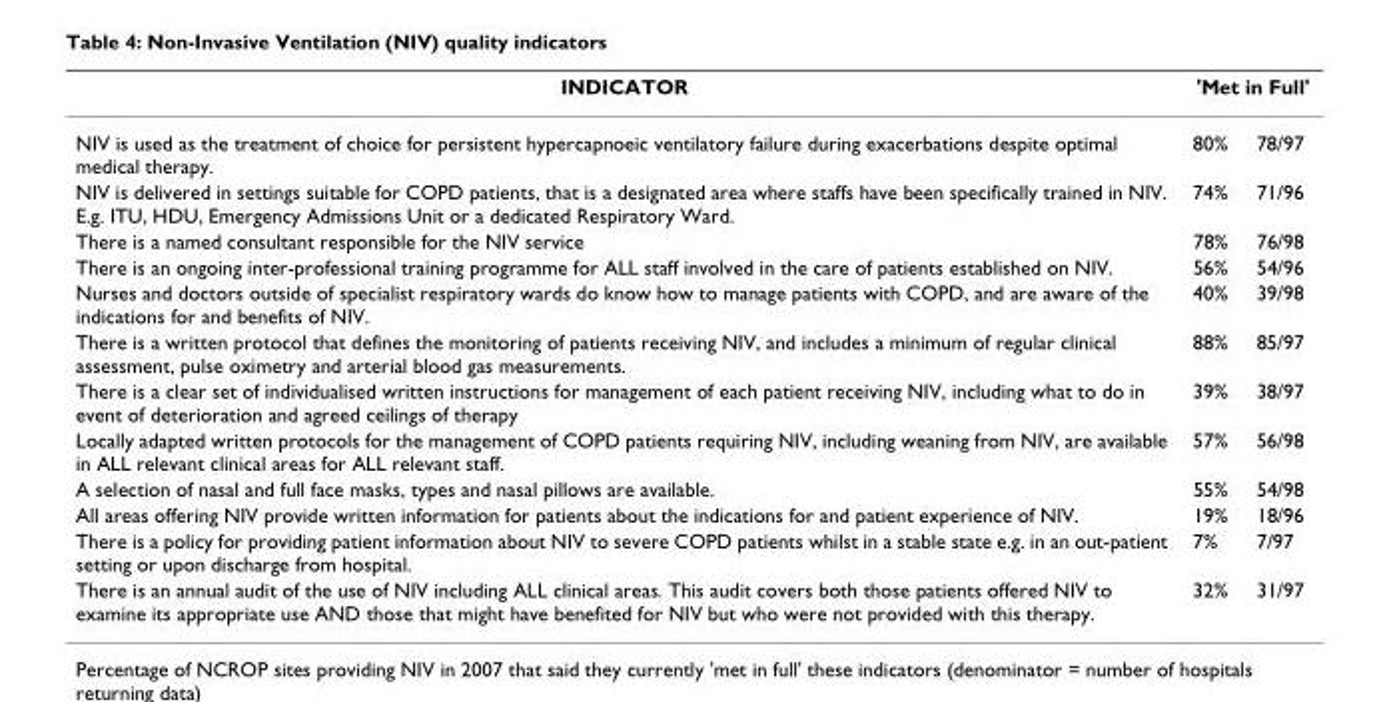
<table><thead><tr><td rowspan="2">INDICATOR NIV is used as the treatment of choice for persistent hypercapnoeic ventilatory failure during exacerbations despite optimal medical therapy.</td><td colspan="2">&#x27;Met in Full&#x27;</td></tr><tr><td>80%</td><td>78/97</td></tr></thead><tbody><tr><td>NIV is delivered in settings suitable for COPD patients, that is a designated area where staffs have been specifically trained in NIV. E.g. ITU, HDU, Emergency Admissions Unit or a dedicated Respiratory Ward.</td><td>74%</td><td>71/96</td></tr><tr><td>There is a named consultant responsible for the NIV service</td><td>78%</td><td>76/98</td></tr><tr><td>There is an ongoing inter-professional training programme for ALL staff involved in the care of patients established on NIV.</td><td>56%</td><td>54/96</td></tr><tr><td>Nurses and doctors outside of specialist respiratory wards do know how to manage patients with COPD, and are aware of the indications for and benefits of NIV.</td><td>40%</td><td>39/98</td></tr><tr><td>There is a written protocol that defines the monitoring of patients receiving NIV, and includes a minimum of regular clinical assessment, pulse oximetry and arterial blood gas measurements.</td><td>88%</td><td>85/97</td></tr><tr><td>There is a clear set of individualised written instructions for management of each patient receiving NIV, including what to do in event of deterioration and agreed ceilings of therapy</td><td>39%</td><td>38/97</td></tr><tr><td>Locally adapted written protocols for the management of COPD patients requiring NIV, including weaning from NIV, are available in ALL relevant clinical areas for ALL relevant staff.</td><td>57%</td><td>56/98</td></tr><tr><td>A selection of nasal and full face masks, types and nasal pillows are available.</td><td>55%</td><td>54/98</td></tr><tr><td>All areas offering NIV provide written information for patients about the indications for and patient experience of NIV.</td><td>19%</td><td>18/96</td></tr><tr><td>There is a policy for providing patient information about NIV to severe COPD patients whilst in a stable state e.g. in an out-patient setting or upon discharge from hospital.</td><td>7%</td><td>7/97</td></tr><tr><td>There is an annual audit of the use of NIV including ALL clinical areas. This audit covers both those patients offered NIV to examine its appropriate use AND those that might have benefited for NIV but who were not provided with this therapy.</td><td>32%</td><td>31/97</td></tr></tbody></table>